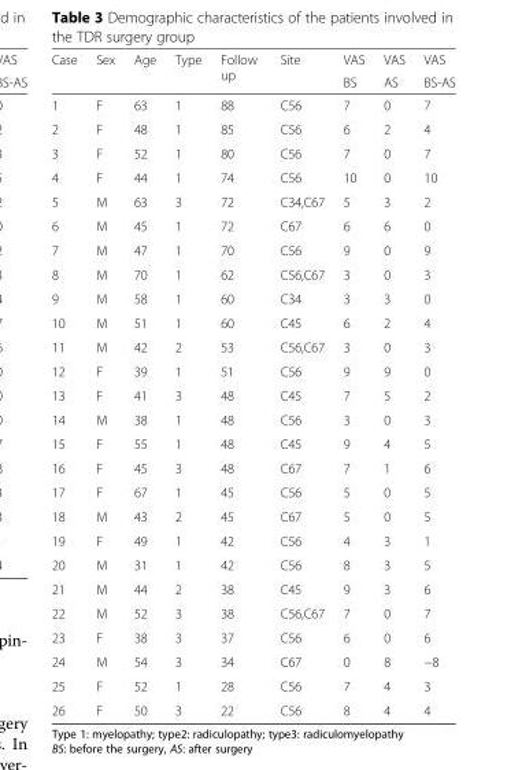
<table><thead><tr><td rowspan="2">Case</td><td rowspan="2">Sex</td><td rowspan="2">Age</td><td rowspan="2">Type</td><td rowspan="2">Follow up</td><td rowspan="2">Site</td><td rowspan="2">VAS BS</td><td rowspan="2">VAS AS</td><td rowspan="2">VAS BS-AS</td></tr><tr></tr></thead><tbody><tr><td>1</td><td>F</td><td>63</td><td>1</td><td>88</td><td>C56</td><td>7</td><td>0</td><td>7</td></tr><tr><td>2</td><td>F</td><td>48</td><td>1</td><td>85</td><td>C56</td><td>6</td><td>2</td><td>4</td></tr><tr><td>3</td><td>F</td><td>52</td><td>1</td><td>80</td><td>C56</td><td>7</td><td>0</td><td>7</td></tr><tr><td>4</td><td>F</td><td>44</td><td>1</td><td>74</td><td>C56</td><td>10</td><td>0</td><td>10</td></tr><tr><td>5</td><td>M</td><td>63</td><td>3</td><td>72</td><td>C34,C67</td><td>5</td><td>3</td><td>2</td></tr><tr><td>6</td><td>M</td><td>45</td><td>1</td><td>72</td><td>C67</td><td>6</td><td>6</td><td>0</td></tr><tr><td>7</td><td>M</td><td>47</td><td>1</td><td>70</td><td>C56</td><td>9</td><td>0</td><td>9</td></tr><tr><td>8</td><td>M</td><td>70</td><td>1</td><td>62</td><td>C56,C67</td><td>3</td><td>0</td><td>3</td></tr><tr><td>9</td><td>M</td><td>58</td><td>1</td><td>60</td><td>C34</td><td>3</td><td>3</td><td>0</td></tr><tr><td>10</td><td>M</td><td>51</td><td>1</td><td>60</td><td>C45</td><td>6</td><td>2</td><td>4</td></tr><tr><td>11</td><td>M</td><td>42</td><td>2</td><td>53</td><td>C56,C67</td><td>3</td><td>0</td><td>3</td></tr><tr><td>12</td><td>F</td><td>39</td><td>1</td><td>51</td><td>C56</td><td>9</td><td>9</td><td>0</td></tr><tr><td>13</td><td>F</td><td>41</td><td>3</td><td>48</td><td>C45</td><td>7</td><td>5</td><td>2</td></tr><tr><td>14</td><td>M</td><td>38</td><td>1</td><td>48</td><td>C56</td><td>3</td><td>0</td><td>3</td></tr><tr><td>15</td><td>F</td><td>55</td><td>1</td><td>48</td><td>C45</td><td>9</td><td>4</td><td>5</td></tr><tr><td>16</td><td>F</td><td>45</td><td>3</td><td>48</td><td>C67</td><td>7</td><td>1</td><td>6</td></tr><tr><td>17</td><td>F</td><td>67</td><td>1</td><td>45</td><td>C56</td><td>5</td><td>0</td><td>5</td></tr><tr><td>18</td><td>M</td><td>43</td><td>2</td><td>45</td><td>C67</td><td>5</td><td>0</td><td>5</td></tr><tr><td>19</td><td>F</td><td>49</td><td>1</td><td>42</td><td>C56</td><td>4</td><td>3</td><td>1</td></tr><tr><td>20</td><td>M</td><td>31</td><td>1</td><td>42</td><td>C56</td><td>8</td><td>3</td><td>5</td></tr><tr><td>21</td><td>M</td><td>44</td><td>2</td><td>38</td><td>C45</td><td>9</td><td>3</td><td>6</td></tr><tr><td>22</td><td>M</td><td>52</td><td>3</td><td>38</td><td>C56,C67</td><td>7</td><td>0</td><td>7</td></tr><tr><td>23</td><td>F</td><td>38</td><td>3</td><td>37</td><td>C56</td><td>6</td><td>0</td><td>6</td></tr><tr><td>24</td><td>M</td><td>54</td><td>3</td><td>34</td><td>C67</td><td>0</td><td>8</td><td>−8</td></tr><tr><td>25</td><td>F</td><td>52</td><td>1</td><td>28</td><td>C56</td><td>7</td><td>4</td><td>3</td></tr><tr><td>26</td><td>F</td><td>50</td><td>3</td><td>22</td><td>C56</td><td>8</td><td>4</td><td>4</td></tr></tbody></table>